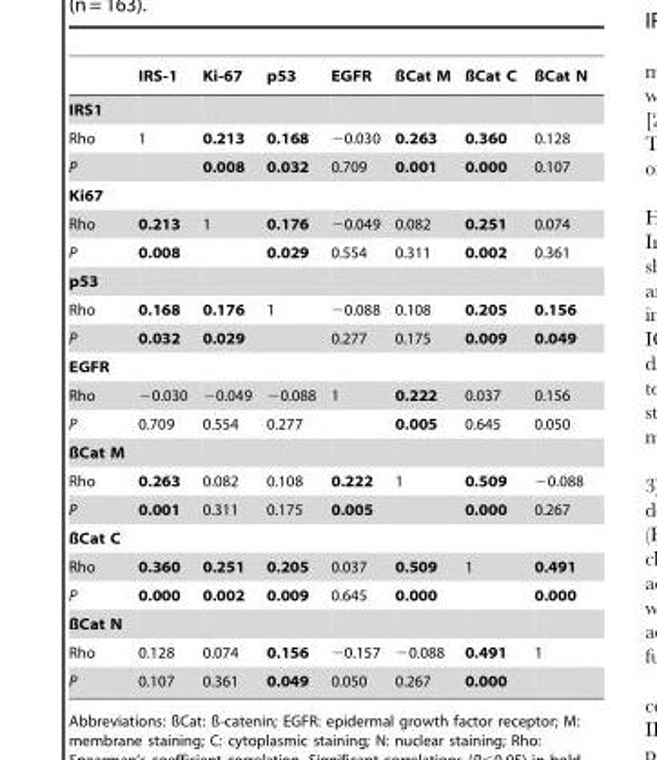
<table><thead><tr><td></td><td>IRS-1</td><td>Ki-67</td><td>p53</td><td>EGFR</td><td>ßCat M</td><td>ßCat C</td><td>ßCat N</td></tr></thead><tbody><tr><td colspan="8">IRS1</td></tr><tr><td>Rho</td><td>1</td><td>0.213</td><td>0.168</td><td>−0.030</td><td>0.263</td><td>0.360</td><td>0.128</td></tr><tr><td>P</td><td></td><td>0.008</td><td>0.032</td><td>0.709</td><td>0.001</td><td>0.000</td><td>0.107</td></tr><tr><td colspan="8">Ki67</td></tr><tr><td>Rho</td><td>0.213</td><td>1</td><td>0.176</td><td>−0.049</td><td>0.082</td><td>0.251</td><td>0.074</td></tr><tr><td>P</td><td>0.008</td><td></td><td>0.029</td><td>0.554</td><td>0.311</td><td>0.002</td><td>0.361</td></tr><tr><td colspan="8">p53</td></tr><tr><td>Rho</td><td>0.168</td><td>0.176</td><td>1</td><td>−0.088</td><td>0.108</td><td>0.205</td><td>0.156</td></tr><tr><td>P</td><td>0.032</td><td>0.029</td><td></td><td>0.277</td><td>0.175</td><td>0.009</td><td>0.049</td></tr><tr><td colspan="8">EGFR</td></tr><tr><td>Rho</td><td>−0.030</td><td>−0.049</td><td>−0.088</td><td>1</td><td>0.222</td><td>0.037</td><td>0.156</td></tr><tr><td>P</td><td>0.709</td><td>0.554</td><td>0.277</td><td></td><td>0.005</td><td>0.645</td><td>0.050</td></tr><tr><td colspan="8">ßCat M</td></tr><tr><td>Rho</td><td>0.263</td><td>0.082</td><td>0.108</td><td>0.222</td><td>1</td><td>0.509</td><td>−0.088</td></tr><tr><td>P</td><td>0.001</td><td>0.311</td><td>0.175</td><td>0.005</td><td></td><td>0.000</td><td>0.267</td></tr><tr><td colspan="8">ßCat C</td></tr><tr><td>Rho</td><td>0.360</td><td>0.251</td><td>0.205</td><td>0.037</td><td>0.509</td><td>1</td><td>0.491</td></tr><tr><td>P</td><td>0.000</td><td>0.002</td><td>0.009</td><td>0.645</td><td>0.000</td><td></td><td>0.000</td></tr><tr><td colspan="8">ßCat N</td></tr><tr><td>Rho</td><td>0.128</td><td>0.074</td><td>0.156</td><td>−0.157</td><td>−0.088</td><td>0.491</td><td>1</td></tr><tr><td>P</td><td>0.107</td><td>0.361</td><td>0.049</td><td>0.050</td><td>0.267</td><td>0.000</td><td></td></tr></tbody></table>